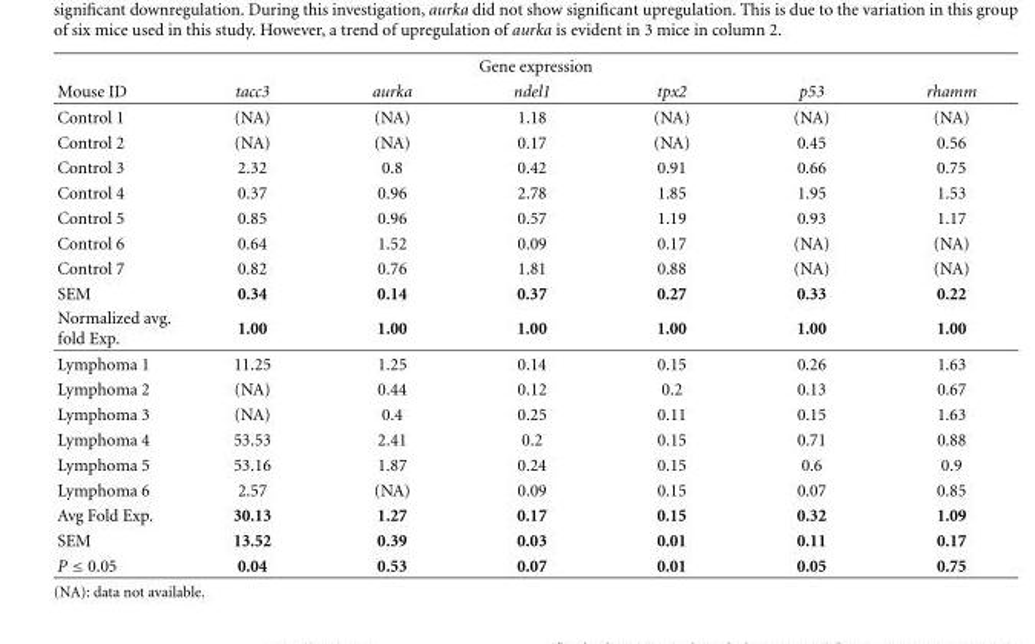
<table><thead><tr><td colspan="7">Gene expression</td></tr><tr><td>Mouse ID</td><td>tacc3</td><td>aurka</td><td>ndel1</td><td>tpx2</td><td>p53</td><td>rhamm</td></tr></thead><tbody><tr><td>Control 1</td><td>(NA)</td><td>(NA)</td><td>1.18</td><td>(NA)</td><td>(NA)</td><td>(NA)</td></tr><tr><td>Control 2</td><td>(NA)</td><td>(NA)</td><td>0.17</td><td>(NA)</td><td>0.45</td><td>0.56</td></tr><tr><td>Control 3</td><td>2.32</td><td>0.8</td><td>0.42</td><td>0.91</td><td>0.66</td><td>0.75</td></tr><tr><td>Control 4</td><td>0.37</td><td>0.96</td><td>2.78</td><td>1.85</td><td>1.95</td><td>1.53</td></tr><tr><td>Control 5</td><td>0.85</td><td>0.96</td><td>0.57</td><td>1.19</td><td>0.93</td><td>1.17</td></tr><tr><td>Control 6</td><td>0.64</td><td>1.52</td><td>0.09</td><td>0.17</td><td>(NA)</td><td>(NA)</td></tr><tr><td>Control 7</td><td>0.82</td><td>0.76</td><td>1.81</td><td>0.88</td><td>(NA)</td><td>(NA)</td></tr><tr><td>SEM</td><td>0.34</td><td>0.14</td><td>0.37</td><td>0.27</td><td>0.33</td><td>0.22</td></tr><tr><td>Normalized avg. fold Exp.</td><td>1.00</td><td>1.00</td><td>1.00</td><td>1.00</td><td>1.00</td><td>1.00</td></tr><tr><td>Lymphoma 1</td><td>11.25</td><td>1.25</td><td>0.14</td><td>0.15</td><td>0.26</td><td>1.63</td></tr><tr><td>Lymphoma 2</td><td>(NA)</td><td>0.44</td><td>0.12</td><td>0.2</td><td>0.13</td><td>0.67</td></tr><tr><td>Lymphoma 3</td><td>(NA)</td><td>0.4</td><td>0.25</td><td>0.11</td><td>0.15</td><td>1.63</td></tr><tr><td>Lymphoma 4</td><td>53.53</td><td>2.41</td><td>0.2</td><td>0.15</td><td>0.71</td><td>0.88</td></tr><tr><td>Lymphoma 5</td><td>53.16</td><td>1.87</td><td>0.24</td><td>0.15</td><td>0.6</td><td>0.9</td></tr><tr><td>Lymphoma 6</td><td>2.57</td><td>(NA)</td><td>0.09</td><td>0.15</td><td>0.07</td><td>0.85</td></tr><tr><td>Avg Fold Exp.</td><td>30.13</td><td>1.27</td><td>0.17</td><td>0.15</td><td>0.32</td><td>1.09</td></tr><tr><td>SEM</td><td>13.52</td><td>0.39</td><td>0.03</td><td>0.01</td><td>0.11</td><td>0.17</td></tr><tr><td>P ≤ 0.05</td><td>0.04</td><td>0.53</td><td>0.07</td><td>0.01</td><td>0.05</td><td>0.75</td></tr></tbody></table>